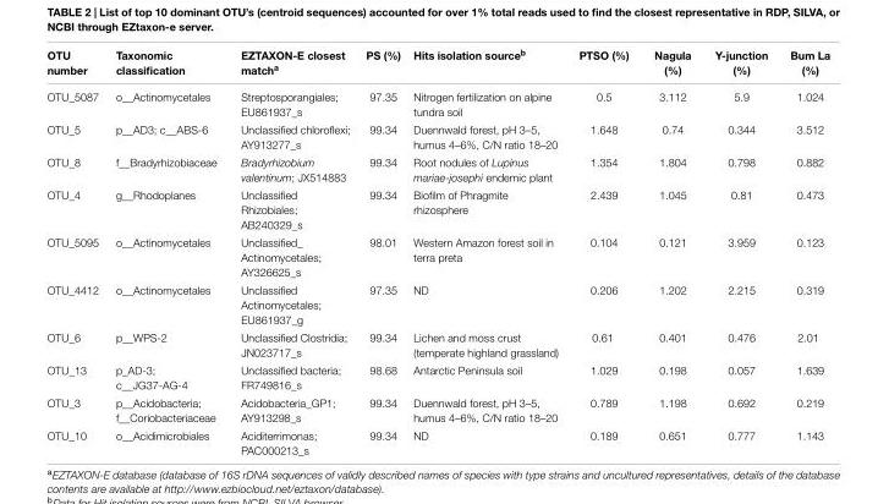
<table><thead><tr><td>OTU number</td><td>Taxonomic classification</td><td>EZTAXON-E closest match<sup>a</sup></td><td>PS (%)</td><td>Hits isolation source<sup>b</sup></td><td>PTSO (%)</td><td>Nagula (%)</td><td>Y-junction (%)</td><td>Bum La (%)</td></tr></thead><tbody><tr><td>OTU_5087</td><td>o__Actinomycetales</td><td>Streptosporangiales; EU861937_s</td><td>97.35</td><td>Nitrogen fertilization on alpine tundra soil</td><td>0.5</td><td>3.112</td><td>5.9</td><td>1.024</td></tr><tr><td>OTU_5</td><td>p__AD3; c__ABS-6</td><td>Unclassified chloroflexi; AY913277_s</td><td>99.34</td><td>Duennwald forest, pH 3–5, humus 4–6%, C/N ratio 18–20</td><td>1.648</td><td>0.74</td><td>0.344</td><td>3.512</td></tr><tr><td>OTU_8</td><td>f__Bradyrhizobiaceae</td><td>Bradyrhizobium valentinum; JX514883</td><td>99.34</td><td>Root nodules of Lupinus mariae-josephi endemic plant</td><td>1.354</td><td>1.804</td><td>0.798</td><td>0.882</td></tr><tr><td>OTU_4</td><td>g__Rhodoplanes</td><td>Unclassified Rhizobiales; AB240329_s</td><td>99.34</td><td>Biofilm of Phragmite rhizosphere</td><td>2.439</td><td>1.045</td><td>0.81</td><td>0.473</td></tr><tr><td>OTU_5095</td><td>o__Actinomycetales</td><td>Unclassified_ Actinomycetales; AY326625_s</td><td>98.01</td><td>Western Amazon forest soil in terra preta</td><td>0.104</td><td>0.121</td><td>3.959</td><td>0.123</td></tr><tr><td>OTU_4412</td><td>o__Actinomycetales</td><td>Unclassified Actinomycetales; EU861937_g</td><td>97.35</td><td>ND</td><td>0.206</td><td>1.202</td><td>2.215</td><td>0.319</td></tr><tr><td>OTU_6</td><td>p__WPS-2</td><td>Unclassified Clostridia; JN023717_s</td><td>99.34</td><td>Lichen and moss crust (temperate highland grassland)</td><td>0.61</td><td>0.401</td><td>0.476</td><td>2.01</td></tr><tr><td>OTU_13</td><td>p_AD-3; c__JG37-AG-4</td><td>Unclassified bacteria; FR749816_s</td><td>98.68</td><td>Antarctic Peninsula soil</td><td>1.029</td><td>0.198</td><td>0.057</td><td>1.639</td></tr><tr><td>OTU_3</td><td>p__Acidobacteria; f__Coriobacteriaceae</td><td>Acidobacteria_GP1; AY913298_s</td><td>99.34</td><td>Duennwald forest, pH 3–5, humus 4–6%, C/N ratio 18–20</td><td>0.789</td><td>1.198</td><td>0.692</td><td>0.219</td></tr><tr><td>OTU_10</td><td>o__Acidimicrobiales</td><td>Aciditerrimonas; PAC000213_s</td><td>99.34</td><td>ND</td><td>0.189</td><td>0.651</td><td>0.777</td><td>1.143</td></tr></tbody></table>